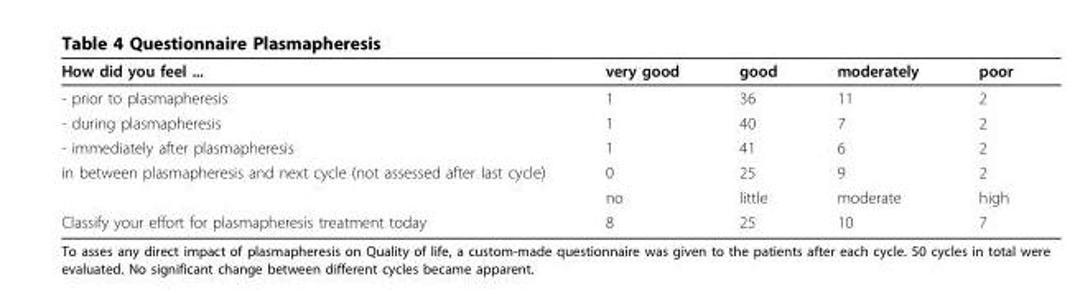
<table><thead><tr><td>How did you feel ...</td><td>very good</td><td>good</td><td>moderately</td><td>poor</td></tr></thead><tbody><tr><td>- prior to plasmapheresis</td><td>1</td><td>36</td><td>11</td><td>2</td></tr><tr><td>- during plasmapheresis</td><td>1</td><td>40</td><td>7</td><td>2</td></tr><tr><td>- immediately after plasmapheresis</td><td>1</td><td>41</td><td>6</td><td>2</td></tr><tr><td rowspan="2">in between plasmapheresis and next cycle (not assessed after last cycle)</td><td>0</td><td>25</td><td>9</td><td>2</td></tr><tr><td>no</td><td>little</td><td>moderate</td><td>high</td></tr><tr><td>Classify your effort for plasmapheresis treatment today</td><td>8</td><td>25</td><td>10</td><td>7</td></tr></tbody></table>